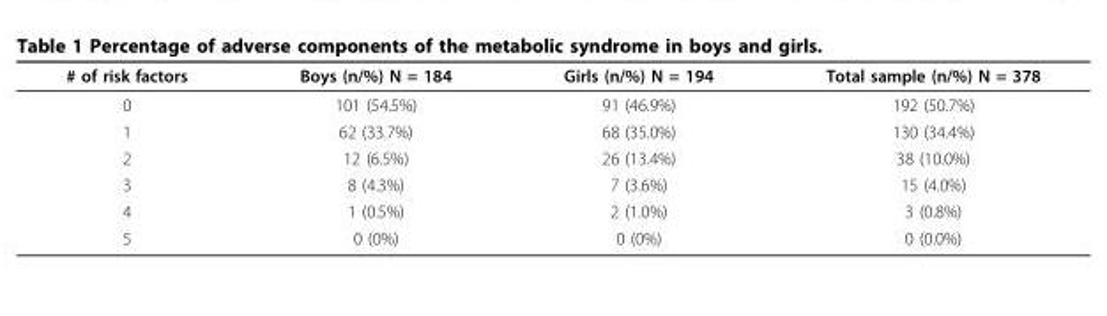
<table><thead><tr><td># of risk factors</td><td>Boys (n/%) N = 184</td><td>Girls (n/%) N = 194</td><td>Total sample (n/%) N = 378</td></tr></thead><tbody><tr><td>0</td><td>101 (54.5%)</td><td>91 (46.9%)</td><td>192 (50.7%)</td></tr><tr><td>1</td><td>62 (33.7%)</td><td>68 (35.0%)</td><td>130 (34.4%)</td></tr><tr><td>2</td><td>12 (6.5%)</td><td>26 (13.4%)</td><td>38 (10.0%)</td></tr><tr><td>3</td><td>8 (4.3%)</td><td>7 (3.6%)</td><td>15 (4.0%)</td></tr><tr><td>4</td><td>1 (0.5%)</td><td>2 (1.0%)</td><td>3 (0.8%)</td></tr><tr><td>5</td><td>0 (0%)</td><td>0 (0%)</td><td>0 (0.0%)</td></tr></tbody></table>